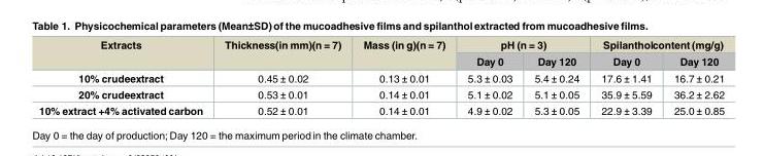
<table><thead><tr><td rowspan="2">Extracts</td><td rowspan="2">Thickness(in mm)(n = 7)</td><td rowspan="2">Mass (in g)(n = 7)</td><td colspan="2">pH (n = 3)</td><td colspan="2">Spilantholcontent (mg/g)</td></tr><tr><td>Day 0</td><td>Day 120</td><td>Day 0</td><td>Day 120</td></tr></thead><tbody><tr><td>10% crudeextract</td><td>0.45 ± 0.02</td><td>0.13 ± 0.01</td><td>5.3 ± 0.03</td><td>5.4 ± 0.24</td><td>17.6 ± 1.41</td><td>16.7 ± 0.21</td></tr><tr><td>20% crudeextract</td><td>0.53 ± 0.01</td><td>0.14 ± 0.01</td><td>5.1 ± 0.02</td><td>5.1 ± 0.05</td><td>35.9 ± 5.59</td><td>36.2 ± 2.62</td></tr><tr><td>10% extract +4% activated carbon</td><td>0.52 ± 0.01</td><td>0.14 ± 0.01</td><td>4.9 ± 0.02</td><td>5.3 ± 0.05</td><td>22.9 ± 3.39</td><td>25.0 ± 0.85</td></tr></tbody></table>